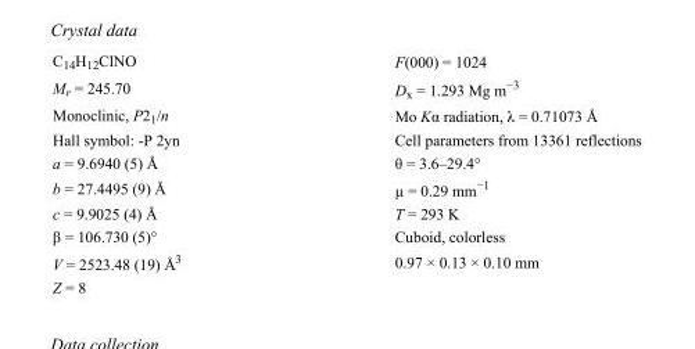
<table><tbody><tr><td>C<sub>14</sub>H<sub>12</sub>ClNO</td><td>F(000) = 1024</td></tr><tr><td>M<sub>r</sub> = 245.70</td><td>D<sub>x</sub> = 1.293 Mg m<sup>−3</sup></td></tr><tr><td>Monoclinic, P2<sub>1</sub>/n</td><td>Mo Kα radiation, λ = 0.71073 Å</td></tr><tr><td>Hall symbol: -P 2yn</td><td>Cell parameters from 13361 reflections</td></tr><tr><td>a = 9.6940 (5) Å</td><td>θ = 3.6–29.4°</td></tr><tr><td>b = 27.4495 (9) Å</td><td>µ = 0.29 mm<sup>−1</sup></td></tr><tr><td>c = 9.9025 (4) Å</td><td>T = 293 K</td></tr><tr><td>β = 106.730 (5)°</td><td>Cuboid, colorless</td></tr><tr><td>V = 2523.48 (19) Å<sup>3</sup></td><td>0.97 × 0.13 × 0.10 mm</td></tr><tr><td>Z = 8</td><td></td></tr></tbody></table>